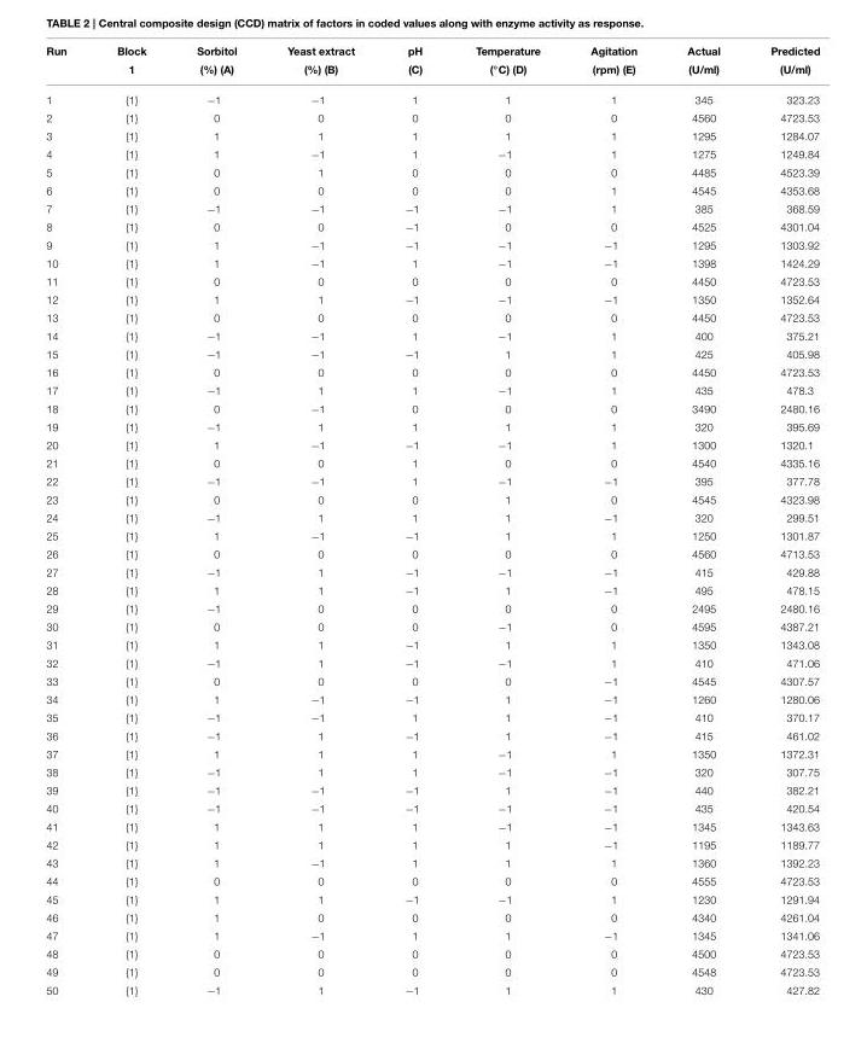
<table><thead><tr><td rowspan="2">Run</td><td rowspan="2">Block 1</td><td rowspan="2">Sorbitol (%) (A)</td><td rowspan="2">Yeast extract (%) (B)</td><td rowspan="2">pH (C)</td><td rowspan="2">Temperature (◦C) (D)</td><td rowspan="2">Agitation (rpm) (E)</td><td rowspan="2">Actual (U/ml)</td><td rowspan="2">Predicted (U/ml)</td></tr><tr></tr></thead><tbody><tr><td>1</td><td>{1}</td><td>−1</td><td>−1</td><td>1</td><td>1</td><td>1</td><td>345</td><td>323.23</td></tr><tr><td>2</td><td>{1}</td><td>0</td><td>0</td><td>0</td><td>0</td><td>0</td><td>4560</td><td>4723.53</td></tr><tr><td>3</td><td>{1}</td><td>1</td><td>1</td><td>1</td><td>1</td><td>1</td><td>1295</td><td>1284.07</td></tr><tr><td>4</td><td>{1}</td><td>1</td><td>−1</td><td>1</td><td>−1</td><td>1</td><td>1275</td><td>1249.84</td></tr><tr><td>5</td><td>{1}</td><td>0</td><td>1</td><td>0</td><td>0</td><td>0</td><td>4485</td><td>4523.39</td></tr><tr><td>6</td><td>{1}</td><td>0</td><td>0</td><td>0</td><td>0</td><td>1</td><td>4545</td><td>4353.68</td></tr><tr><td>7</td><td>{1}</td><td>−1</td><td>−1</td><td>−1</td><td>−1</td><td>1</td><td>385</td><td>368.59</td></tr><tr><td>8</td><td>{1}</td><td>0</td><td>0</td><td>−1</td><td>0</td><td>0</td><td>4525</td><td>4301.04</td></tr><tr><td>9</td><td>{1}</td><td>1</td><td>−1</td><td>−1</td><td>−1</td><td>−1</td><td>1295</td><td>1303.92</td></tr><tr><td>10</td><td>{1}</td><td>1</td><td>−1</td><td>1</td><td>−1</td><td>−1</td><td>1398</td><td>1424.29</td></tr><tr><td>11</td><td>{1}</td><td>0</td><td>0</td><td>0</td><td>0</td><td>0</td><td>4450</td><td>4723.53</td></tr><tr><td>12</td><td>{1}</td><td>1</td><td>1</td><td>−1</td><td>−1</td><td>−1</td><td>1350</td><td>1352.64</td></tr><tr><td>13</td><td>{1}</td><td>0</td><td>0</td><td>0</td><td>0</td><td>0</td><td>4450</td><td>4723.53</td></tr><tr><td>14</td><td>{1}</td><td>−1</td><td>−1</td><td>1</td><td>−1</td><td>1</td><td>400</td><td>375.21</td></tr><tr><td>15</td><td>{1}</td><td>−1</td><td>−1</td><td>−1</td><td>1</td><td>1</td><td>425</td><td>405.98</td></tr><tr><td>16</td><td>{1}</td><td>0</td><td>0</td><td>0</td><td>0</td><td>0</td><td>4450</td><td>4723.53</td></tr><tr><td>17</td><td>{1}</td><td>−1</td><td>1</td><td>1</td><td>−1</td><td>1</td><td>435</td><td>478.3</td></tr><tr><td>18</td><td>{1}</td><td>0</td><td>−1</td><td>0</td><td>0</td><td>0</td><td>3490</td><td>2480.16</td></tr><tr><td>19</td><td>{1}</td><td>−1</td><td>1</td><td>1</td><td>1</td><td>1</td><td>320</td><td>395.69</td></tr><tr><td>20</td><td>{1}</td><td>1</td><td>−1</td><td>−1</td><td>−1</td><td>1</td><td>1300</td><td>1320.1</td></tr><tr><td>21</td><td>{1}</td><td>0</td><td>0</td><td>1</td><td>0</td><td>0</td><td>4540</td><td>4335.16</td></tr><tr><td>22</td><td>{1}</td><td>−1</td><td>−1</td><td>1</td><td>−1</td><td>−1</td><td>395</td><td>377.78</td></tr><tr><td>23</td><td>{1}</td><td>0</td><td>0</td><td>0</td><td>1</td><td>0</td><td>4545</td><td>4323.98</td></tr><tr><td>24</td><td>{1}</td><td>−1</td><td>1</td><td>1</td><td>1</td><td>−1</td><td>320</td><td>299.51</td></tr><tr><td>25</td><td>{1}</td><td>1</td><td>−1</td><td>−1</td><td>1</td><td>1</td><td>1250</td><td>1301.87</td></tr><tr><td>26</td><td>{1}</td><td>0</td><td>0</td><td>0</td><td>0</td><td>0</td><td>4560</td><td>4713.53</td></tr><tr><td>27</td><td>{1}</td><td>−1</td><td>1</td><td>−1</td><td>−1</td><td>−1</td><td>415</td><td>429.88</td></tr><tr><td>28</td><td>{1}</td><td>1</td><td>1</td><td>−1</td><td>1</td><td>−1</td><td>495</td><td>478.15</td></tr><tr><td>29</td><td>{1}</td><td>−1</td><td>0</td><td>0</td><td>0</td><td>0</td><td>2495</td><td>2480.16</td></tr><tr><td>30</td><td>{1}</td><td>0</td><td>0</td><td>0</td><td>−1</td><td>0</td><td>4595</td><td>4387.21</td></tr><tr><td>31</td><td>{1}</td><td>1</td><td>1</td><td>−1</td><td>1</td><td>1</td><td>1350</td><td>1343.08</td></tr><tr><td>32</td><td>{1}</td><td>−1</td><td>1</td><td>−1</td><td>−1</td><td>1</td><td>410</td><td>471.06</td></tr><tr><td>33</td><td>{1}</td><td>0</td><td>0</td><td>0</td><td>0</td><td>−1</td><td>4545</td><td>4307.57</td></tr><tr><td>34</td><td>{1}</td><td>1</td><td>−1</td><td>−1</td><td>1</td><td>−1</td><td>1260</td><td>1280.06</td></tr><tr><td>35</td><td>{1}</td><td>−1</td><td>−1</td><td>1</td><td>1</td><td>−1</td><td>410</td><td>370.17</td></tr><tr><td>36</td><td>{1}</td><td>−1</td><td>1</td><td>−1</td><td>1</td><td>−1</td><td>415</td><td>461.02</td></tr><tr><td>37</td><td>{1}</td><td>1</td><td>1</td><td>1</td><td>−1</td><td>1</td><td>1350</td><td>1372.31</td></tr><tr><td>38</td><td>{1}</td><td>−1</td><td>1</td><td>1</td><td>−1</td><td>−1</td><td>320</td><td>307.75</td></tr><tr><td>39</td><td>{1}</td><td>−1</td><td>−1</td><td>−1</td><td>1</td><td>−1</td><td>440</td><td>382.21</td></tr><tr><td>40</td><td>{1}</td><td>−1</td><td>−1</td><td>−1</td><td>−1</td><td>−1</td><td>435</td><td>420.54</td></tr><tr><td>41</td><td>{1}</td><td>1</td><td>1</td><td>1</td><td>−1</td><td>−1</td><td>1345</td><td>1343.63</td></tr><tr><td>42</td><td>{1}</td><td>1</td><td>1</td><td>1</td><td>1</td><td>−1</td><td>1195</td><td>1189.77</td></tr><tr><td>43</td><td>{1}</td><td>1</td><td>−1</td><td>1</td><td>1</td><td>1</td><td>1360</td><td>1392.23</td></tr><tr><td>44</td><td>{1}</td><td>0</td><td>0</td><td>0</td><td>0</td><td>0</td><td>4555</td><td>4723.53</td></tr><tr><td>45</td><td>{1}</td><td>1</td><td>1</td><td>−1</td><td>−1</td><td>1</td><td>1230</td><td>1291.94</td></tr><tr><td>46</td><td>{1}</td><td>1</td><td>0</td><td>0</td><td>0</td><td>0</td><td>4340</td><td>4261.04</td></tr><tr><td>47</td><td>{1}</td><td>1</td><td>−1</td><td>1</td><td>1</td><td>−1</td><td>1345</td><td>1341.06</td></tr><tr><td>48</td><td>{1}</td><td>0</td><td>0</td><td>0</td><td>0</td><td>0</td><td>4500</td><td>4723.53</td></tr><tr><td>49</td><td>{1}</td><td>0</td><td>0</td><td>0</td><td>0</td><td>0</td><td>4548</td><td>4723.53</td></tr><tr><td>50</td><td>{1}</td><td>−1</td><td>1</td><td>−1</td><td>1</td><td>1</td><td>430</td><td>427.82</td></tr></tbody></table>